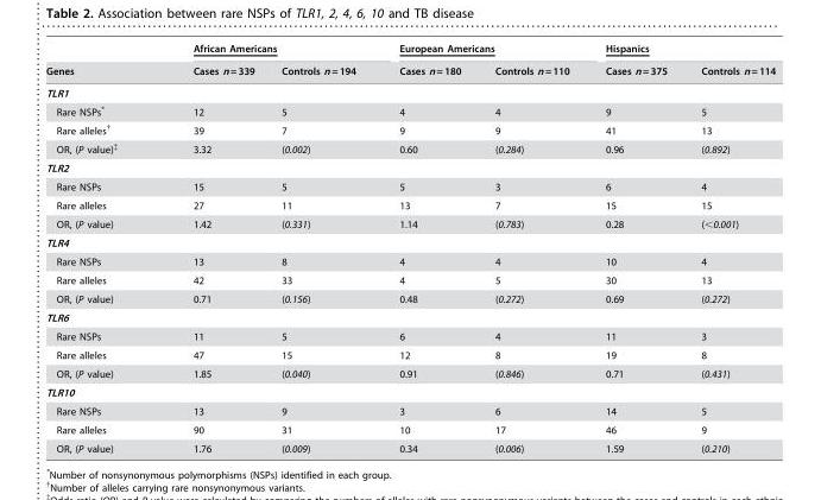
<table><thead><tr><td rowspan="2">Genes</td><td colspan="2">African Americans</td><td colspan="2">European Americans</td><td colspan="2">Hispanics</td></tr><tr><td>Cases n = 339</td><td>Controls n = 194</td><td>Cases n = 180</td><td>Controls n = 110</td><td>Cases n = 375</td><td>Controls n = 114</td></tr></thead><tbody><tr><td colspan="7">TLR1</td></tr><tr><td>Rare NSPs*</td><td>12</td><td>5</td><td>4</td><td>4</td><td>9</td><td>5</td></tr><tr><td>Rare alleles†</td><td>39</td><td>7</td><td>9</td><td>9</td><td>41</td><td>13</td></tr><tr><td>OR, (P value)‡</td><td>3.32</td><td>(0.002)</td><td>0.60</td><td>(0.284)</td><td>0.96</td><td>(0.892)</td></tr><tr><td colspan="7">TLR2</td></tr><tr><td>Rare NSPs</td><td>15</td><td>5</td><td>5</td><td>3</td><td>6</td><td>4</td></tr><tr><td>Rare alleles</td><td>27</td><td>11</td><td>13</td><td>7</td><td>15</td><td>15</td></tr><tr><td>OR, (P value)</td><td>1.42</td><td>(0.331)</td><td>1.14</td><td>(0.783)</td><td>0.28</td><td>(&lt;0.001)</td></tr><tr><td colspan="7">TLR4</td></tr><tr><td>Rare NSPs</td><td>13</td><td>8</td><td>4</td><td>4</td><td>10</td><td>4</td></tr><tr><td>Rare alleles</td><td>42</td><td>33</td><td>4</td><td>5</td><td>30</td><td>13</td></tr><tr><td>OR, (P value)</td><td>0.71</td><td>(0.156)</td><td>0.48</td><td>(0.272)</td><td>0.69</td><td>(0.272)</td></tr><tr><td colspan="7">TLR6</td></tr><tr><td>Rare NSPs</td><td>11</td><td>5</td><td>6</td><td>4</td><td>11</td><td>3</td></tr><tr><td>Rare alleles</td><td>47</td><td>15</td><td>12</td><td>8</td><td>19</td><td>8</td></tr><tr><td>OR, (P value)</td><td>1.85</td><td>(0.040)</td><td>0.91</td><td>(0.846)</td><td>0.71</td><td>(0.431)</td></tr><tr><td colspan="7">TLR10</td></tr><tr><td>Rare NSPs</td><td>13</td><td>9</td><td>3</td><td>6</td><td>14</td><td>5</td></tr><tr><td>Rare alleles</td><td>90</td><td>31</td><td>10</td><td>17</td><td>46</td><td>9</td></tr><tr><td>OR, (P value)</td><td>1.76</td><td>(0.009)</td><td>0.34</td><td>(0.006)</td><td>1.59</td><td>(0.210)</td></tr></tbody></table>